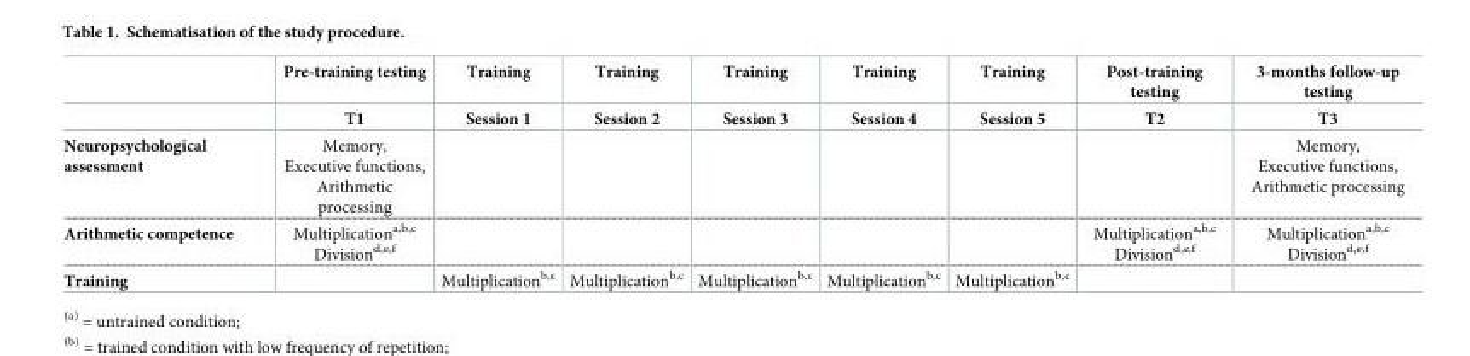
<table><thead><tr><td rowspan="2"></td><td rowspan="2">Pre-training testing T1</td><td rowspan="2">Training Session 1</td><td rowspan="2">Training Session 2</td><td rowspan="2">Training Session 3</td><td rowspan="2">Training Session 4</td><td rowspan="2">Training Session 5</td><td rowspan="2">Post-training testing T2</td><td rowspan="2">3-months follow-up testing T3</td></tr><tr></tr></thead><tbody><tr><td>Neuropsychological assessment</td><td>Memory, Executive functions, Arithmetic processing</td><td></td><td></td><td></td><td></td><td></td><td></td><td>Memory, Executive functions, Arithmetic processing</td></tr><tr><td>Arithmetic competence</td><td>Multiplication<sup>a,b,c</sup> Division<sup>d,e,f</sup></td><td></td><td></td><td></td><td></td><td></td><td>Multiplication<sup>a,b,c</sup> Division<sup>d,e,f</sup></td><td>Multiplication<sup>a,b,c</sup> Division<sup>d,e,f</sup></td></tr><tr><td>Training</td><td></td><td>Multiplication<sup>b,c</sup></td><td>Multiplication<sup>b,c</sup></td><td>Multiplication<sup>b,c</sup></td><td>Multiplication<sup>b,c</sup></td><td>Multiplication<sup>b,c</sup></td><td></td><td></td></tr></tbody></table>